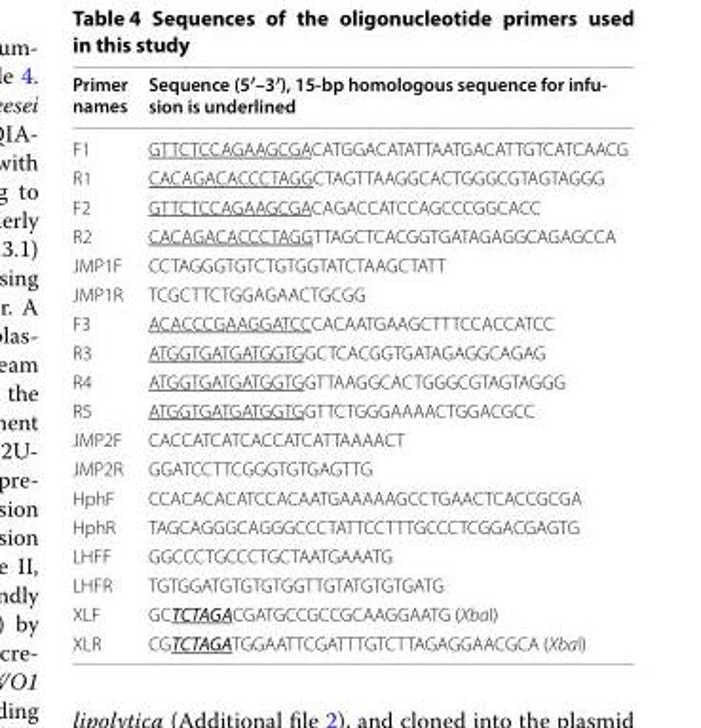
<table><thead><tr><td>Primer names</td><td>Sequence (5′–3′), 15-bp homologous sequence for infu- sion is underlined</td></tr></thead><tbody><tr><td>F1</td><td>GTTCTCCAGAAGCGACATGGACATATTAATGACATTGTCATCAACG</td></tr><tr><td>R1</td><td>CACAGACACCCTAGGCTAGTTAAGGCACTGGGCGTAGTAGGG</td></tr><tr><td>F2</td><td>GTTCTCCAGAAGCGACAGACCATCCAGCCCGGCACC</td></tr><tr><td>R2</td><td>CACAGACACCCTAGGTTAGCTCACGGTGATAGAGGCAGAGCCA</td></tr><tr><td>JMP1F</td><td>CCTAGGGTGTCTGTGGTATCTAAGCTATT</td></tr><tr><td>JMP1R</td><td>TCGCTTCTGGAGAACTGCGG</td></tr><tr><td>F3</td><td>ACACCCGAAGGATCCCACAATGAAGCTTTCCACCATCC</td></tr><tr><td>R3</td><td>ATGGTGATGATGGTGGCTCACGGTGATAGAGGCAGAG</td></tr><tr><td>R4</td><td>ATGGTGATGATGGTGGTTAAGGCACTGGGCGTAGTAGGG</td></tr><tr><td>R5</td><td>ATGGTGATGATGGTGGTTCTGGGAAAACTGGACGCC</td></tr><tr><td>JMP2F</td><td>CACCATCATCACCATCATTAAAACT</td></tr><tr><td>JMP2R</td><td>GGATCCTTCGGGTGTGAGTTG</td></tr><tr><td>HphF</td><td>CCACACACATCCACAATGAAAAAGCCTGAACTCACCGCGA</td></tr><tr><td>HphR</td><td>TAGCAGGGCAGGGCCCTATTCCTTTGCCCTCGGACGAGTG</td></tr><tr><td>LHFF</td><td>GGCCCTGCCCTGCTAATGAAATG</td></tr><tr><td>LHFR</td><td>TGTGGATGTGTGTGGTTGTATGTGTGATG</td></tr><tr><td>XLF</td><td>GCTCTAGACGATGCCGCCGCAAGGAATG (XbaI)</td></tr><tr><td>XLR</td><td>CGTCTAGATGGAATTCGATTTGTCTTAGAGGAACGCA (XbaI)</td></tr></tbody></table>